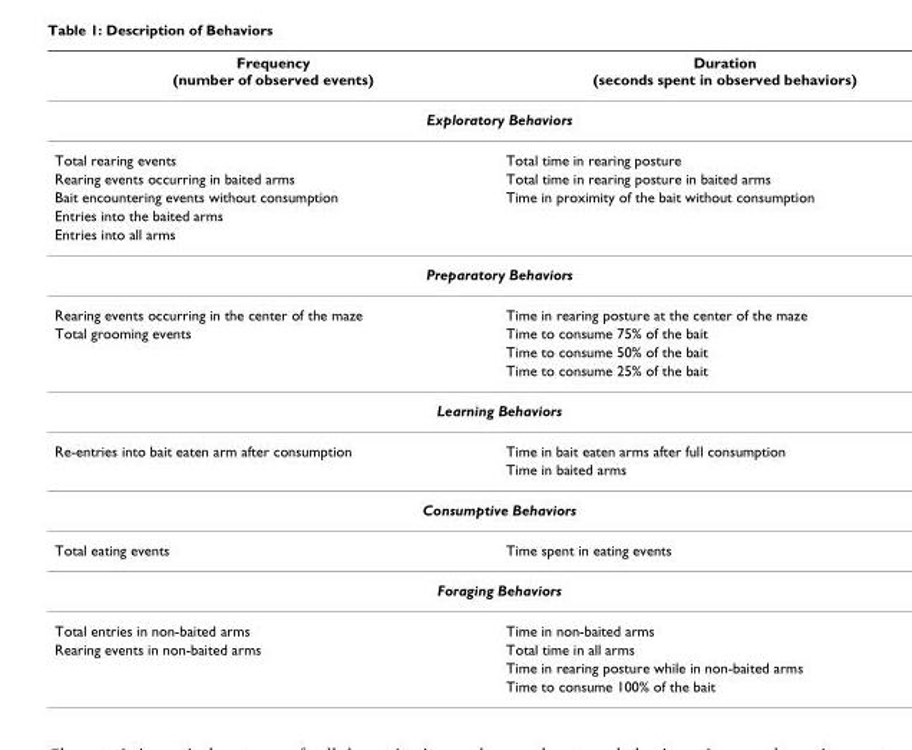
<table><thead><tr><td>Frequency (number of observed events)</td><td>Duration (seconds spent in observed behaviors)</td></tr></thead><tbody><tr><td colspan="2">Exploratory Behaviors</td></tr><tr><td>Total rearing events</td><td>Total time in rearing posture</td></tr><tr><td>Rearing events occurring in baited arms</td><td>Total time in rearing posture in baited arms</td></tr><tr><td>Bait encountering events without consumption</td><td>Time in proximity of the bait without consumption</td></tr><tr><td colspan="2">Entries into the baited arms</td></tr><tr><td colspan="2">Entries into all arms</td></tr><tr><td colspan="2">Preparatory Behaviors</td></tr><tr><td>Rearing events occurring in the center of the maze</td><td>Time in rearing posture at the center of the maze</td></tr><tr><td rowspan="3">Total grooming events</td><td>Time to consume 75% of the bait</td></tr><tr><td>Time to consume 50% of the bait</td></tr><tr><td>Time to consume 25% of the bait</td></tr><tr><td colspan="2">Learning Behaviors</td></tr><tr><td rowspan="2">Re-entries into bait eaten arm after consumption</td><td>Time in bait eaten arms after full consumption</td></tr><tr><td>Time in baited arms</td></tr><tr><td colspan="2">Consumptive Behaviors</td></tr><tr><td>Total eating events</td><td>Time spent in eating events</td></tr><tr><td colspan="2">Foraging Behaviors</td></tr><tr><td>Total entries in non-baited arms</td><td>Time in non-baited arms</td></tr><tr><td rowspan="3">Rearing events in non-baited arms</td><td>Total time in all arms</td></tr><tr><td>Time in rearing posture while in non-baited arms</td></tr><tr><td>Time to consume 100% of the bait</td></tr></tbody></table>